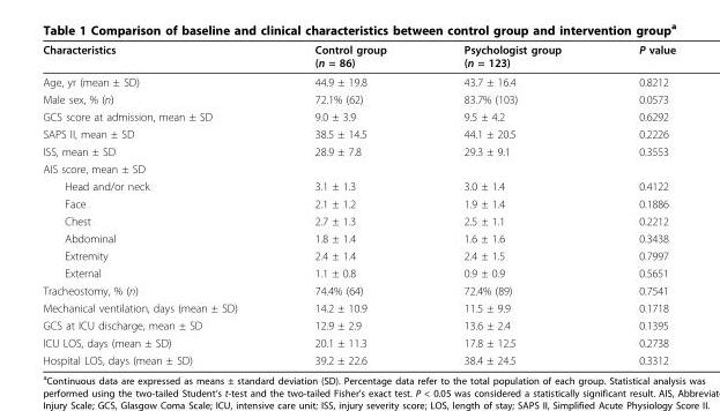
<table><thead><tr><td>Characteristics</td><td>Control group (n = 86)</td><td>Psychologist group (n = 123)</td><td>P value</td></tr></thead><tbody><tr><td>Age, yr (mean ± SD)</td><td>44.9 ± 19.8</td><td>43.7 ± 16.4</td><td>0.8212</td></tr><tr><td>Male sex, % (n)</td><td>72.1% (62)</td><td>83.7% (103)</td><td>0.0573</td></tr><tr><td>GCS score at admission, mean ± SD</td><td>9.0 ± 3.9</td><td>9.5 ± 4.2</td><td>0.6292</td></tr><tr><td>SAPS II, mean ± SD</td><td>38.5 ± 14.5</td><td>44.1 ± 20.5</td><td>0.2226</td></tr><tr><td>ISS, mean ± SD</td><td>28.9 ± 7.8</td><td>29.3 ± 9.1</td><td>0.3553</td></tr><tr><td colspan="4">AIS score, mean ± SD</td></tr><tr><td>Head and/or neck</td><td>3.1 ± 1.3</td><td>3.0 ± 1.4</td><td>0.4122</td></tr><tr><td>Face</td><td>2.1 ± 1.2</td><td>1.9 ± 1.4</td><td>0.1886</td></tr><tr><td>Chest</td><td>2.7 ± 1.3</td><td>2.5 ± 1.1</td><td>0.2212</td></tr><tr><td>Abdominal</td><td>1.8 ± 1.4</td><td>1.6 ± 1.6</td><td>0.3438</td></tr><tr><td>Extremity</td><td>2.4 ± 1.4</td><td>2.4 ± 1.5</td><td>0.7997</td></tr><tr><td>External</td><td>1.1 ± 0.8</td><td>0.9 ± 0.9</td><td>0.5651</td></tr><tr><td>Tracheostomy, % (n)</td><td>74.4% (64)</td><td>72.4% (89)</td><td>0.7541</td></tr><tr><td>Mechanical ventilation, days (mean ± SD)</td><td>14.2 ± 10.9</td><td>11.5 ± 9.9</td><td>0.1718</td></tr><tr><td>GCS at ICU discharge, mean ± SD</td><td>12.9 ± 2.9</td><td>13.6 ± 2.4</td><td>0.1395</td></tr><tr><td>ICU LOS, days (mean ± SD)</td><td>20.1 ± 11.3</td><td>17.8 ± 12.5</td><td>0.2738</td></tr><tr><td>Hospital LOS, days (mean ± SD)</td><td>39.2 ± 22.6</td><td>38.4 ± 24.5</td><td>0.3312</td></tr></tbody></table>